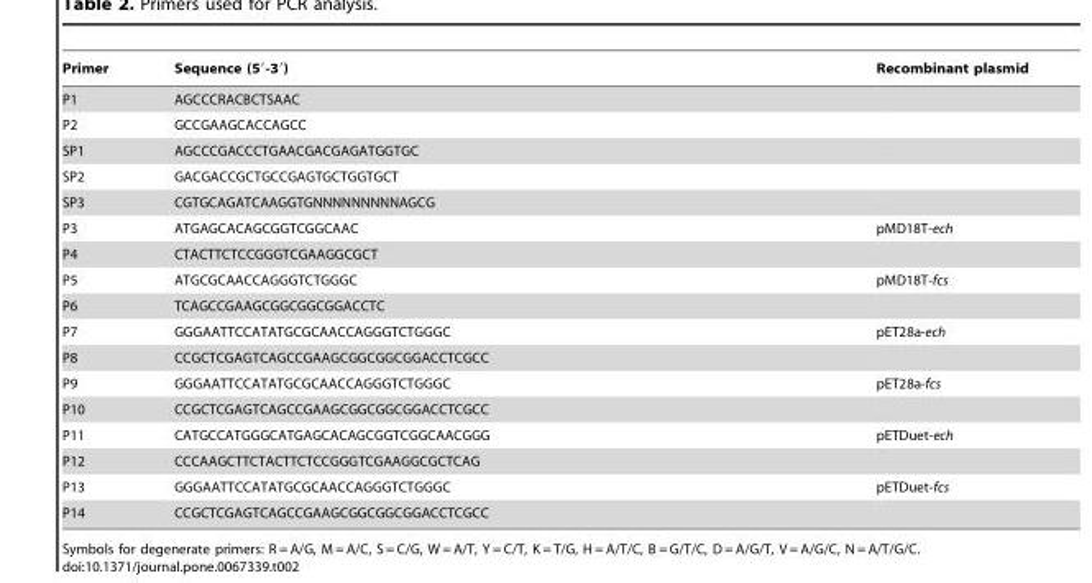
<table><thead><tr><td>Primer</td><td>Sequence (5′-3′)</td><td>Recombinant plasmid</td></tr></thead><tbody><tr><td>P1</td><td>AGCCCRACBCTSAAC</td><td></td></tr><tr><td>P2</td><td>GCCGAAGCACCAGCC</td><td></td></tr><tr><td>SP1</td><td>AGCCCGACCCTGAACGACGAGATGGTGC</td><td></td></tr><tr><td>SP2</td><td>GACGACCGCTGCCGAGTGCTGGTGCT</td><td></td></tr><tr><td>SP3</td><td>CGTGCAGATCAAGGTGNNNNNNNNNAGCG</td><td></td></tr><tr><td>P3</td><td>ATGAGCACAGCGGTCGGCAAC</td><td>pMD18T-ech</td></tr><tr><td>P4</td><td>CTACTTCTCCGGGTCGAAGGCGCT</td><td></td></tr><tr><td>P5</td><td>ATGCGCAACCAGGGTCTGGGC</td><td>pMD18T-fcs</td></tr><tr><td>P6</td><td>TCAGCCGAAGCGGCGGCGGACCTC</td><td></td></tr><tr><td>P7</td><td>GGGAATTCCATATGCGCAACCAGGGTCTGGGC</td><td>pET28a-ech</td></tr><tr><td>P8</td><td>CCGCTCGAGTCAGCCGAAGCGGCGGCGGACCTCGCC</td><td></td></tr><tr><td>P9</td><td>GGGAATTCCATATGCGCAACCAGGGTCTGGGC</td><td>pET28a-fcs</td></tr><tr><td>P10</td><td>CCGCTCGAGTCAGCCGAAGCGGCGGCGGACCTCGCC</td><td></td></tr><tr><td>P11</td><td>CATGCCATGGGCATGAGCACAGCGGTCGGCAACGGG</td><td>pETDuet-ech</td></tr><tr><td>P12</td><td>CCCAAGCTTCTACTTCTCCGGGTCGAAGGCGCTCAG</td><td></td></tr><tr><td>P13</td><td>GGGAATTCCATATGCGCAACCAGGGTCTGGGC</td><td>pETDuet-fcs</td></tr><tr><td>P14</td><td>CCGCTCGAGTCAGCCGAAGCGGCGGCGGACCTCGCC</td><td></td></tr></tbody></table>